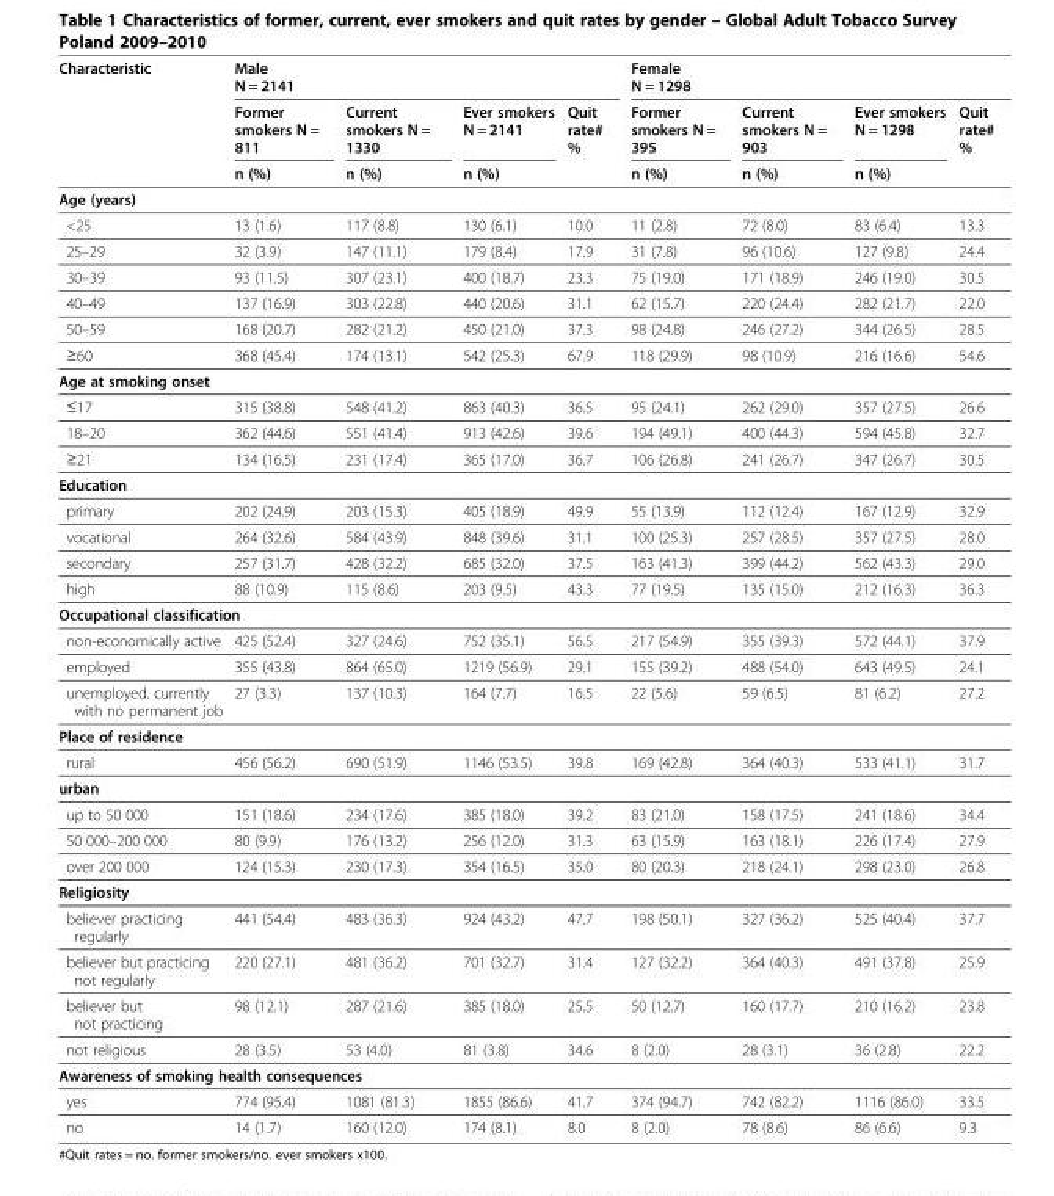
<table><thead><tr><td rowspan="3">Characteristic</td><td colspan="4">Male N = 2141</td><td colspan="4">Female N = 1298</td></tr><tr><td rowspan="2">Former smokers N = 811 n (%)</td><td rowspan="2">Current smokers N = 1330 n (%)</td><td rowspan="2">Ever smokers N = 2141 n (%)</td><td rowspan="2">Quit rate# %</td><td rowspan="2">Former smokers N = 395 n (%)</td><td rowspan="2">Current smokers N = 903 n (%)</td><td rowspan="2">Ever smokers N = 1298 n (%)</td><td rowspan="2">Quit rate# %</td></tr><tr></tr></thead><tbody><tr><td colspan="9">Age (years)</td></tr><tr><td>&lt;25</td><td>13 (1.6)</td><td>117 (8.8)</td><td>130 (6.1)</td><td>10.0</td><td>11 (2.8)</td><td>72 (8.0)</td><td>83 (6.4)</td><td>13.3</td></tr><tr><td>25–29</td><td>32 (3.9)</td><td>147 (11.1)</td><td>179 (8.4)</td><td>17.9</td><td>31 (7.8)</td><td>96 (10.6)</td><td>127 (9.8)</td><td>24.4</td></tr><tr><td>30–39</td><td>93 (11.5)</td><td>307 (23.1)</td><td>400 (18.7)</td><td>23.3</td><td>75 (19.0)</td><td>171 (18.9)</td><td>246 (19.0)</td><td>30.5</td></tr><tr><td>40–49</td><td>137 (16.9)</td><td>303 (22.8)</td><td>440 (20.6)</td><td>31.1</td><td>62 (15.7)</td><td>220 (24.4)</td><td>282 (21.7)</td><td>22.0</td></tr><tr><td>50–59</td><td>168 (20.7)</td><td>282 (21.2)</td><td>450 (21.0)</td><td>37.3</td><td>98 (24.8)</td><td>246 (27.2)</td><td>344 (26.5)</td><td>28.5</td></tr><tr><td>≥60</td><td>368 (45.4)</td><td>174 (13.1)</td><td>542 (25.3)</td><td>67.9</td><td>118 (29.9)</td><td>98 (10.9)</td><td>216 (16.6)</td><td>54.6</td></tr><tr><td colspan="9">Age at smoking onset</td></tr><tr><td>≤17</td><td>315 (38.8)</td><td>548 (41.2)</td><td>863 (40.3)</td><td>36.5</td><td>95 (24.1)</td><td>262 (29.0)</td><td>357 (27.5)</td><td>26.6</td></tr><tr><td>18–20</td><td>362 (44.6)</td><td>551 (41.4)</td><td>913 (42.6)</td><td>39.6</td><td>194 (49.1)</td><td>400 (44.3)</td><td>594 (45.8)</td><td>32.7</td></tr><tr><td>≥21</td><td>134 (16.5)</td><td>231 (17.4)</td><td>365 (17.0)</td><td>36.7</td><td>106 (26.8)</td><td>241 (26.7)</td><td>347 (26.7)</td><td>30.5</td></tr><tr><td colspan="9">Education</td></tr><tr><td>primary</td><td>202 (24.9)</td><td>203 (15.3)</td><td>405 (18.9)</td><td>49.9</td><td>55 (13.9)</td><td>112 (12.4)</td><td>167 (12.9)</td><td>32.9</td></tr><tr><td>vocational</td><td>264 (32.6)</td><td>584 (43.9)</td><td>848 (39.6)</td><td>31.1</td><td>100 (25.3)</td><td>257 (28.5)</td><td>357 (27.5)</td><td>28.0</td></tr><tr><td>secondary</td><td>257 (31.7)</td><td>428 (32.2)</td><td>685 (32.0)</td><td>37.5</td><td>163 (41.3)</td><td>399 (44.2)</td><td>562 (43.3)</td><td>29.0</td></tr><tr><td>high</td><td>88 (10.9)</td><td>115 (8.6)</td><td>203 (9.5)</td><td>43.3</td><td>77 (19.5)</td><td>135 (15.0)</td><td>212 (16.3)</td><td>36.3</td></tr><tr><td colspan="9">Occupational classification</td></tr><tr><td>non-economically active</td><td>425 (52.4)</td><td>327 (24.6)</td><td>752 (35.1)</td><td>56.5</td><td>217 (54.9)</td><td>355 (39.3)</td><td>572 (44.1)</td><td>37.9</td></tr><tr><td>employed</td><td>355 (43.8)</td><td>864 (65.0)</td><td>1219 (56.9)</td><td>29.1</td><td>155 (39.2)</td><td>488 (54.0)</td><td>643 (49.5)</td><td>24.1</td></tr><tr><td>unemployed. currently with no permanent job</td><td>27 (3.3)</td><td>137 (10.3)</td><td>164 (7.7)</td><td>16.5</td><td>22 (5.6)</td><td>59 (6.5)</td><td>81 (6.2)</td><td>27.2</td></tr><tr><td colspan="9">Place of residence</td></tr><tr><td>rural</td><td>456 (56.2)</td><td>690 (51.9)</td><td>1146 (53.5)</td><td>39.8</td><td>169 (42.8)</td><td>364 (40.3)</td><td>533 (41.1)</td><td>31.7</td></tr><tr><td colspan="9">urban</td></tr><tr><td>up to 50 000</td><td>151 (18.6)</td><td>234 (17.6)</td><td>385 (18.0)</td><td>39.2</td><td>83 (21.0)</td><td>158 (17.5)</td><td>241 (18.6)</td><td>34.4</td></tr><tr><td>50 000–200 000</td><td>80 (9.9)</td><td>176 (13.2)</td><td>256 (12.0)</td><td>31.3</td><td>63 (15.9)</td><td>163 (18.1)</td><td>226 (17.4)</td><td>27.9</td></tr><tr><td>over 200 000</td><td>124 (15.3)</td><td>230 (17.3)</td><td>354 (16.5)</td><td>35.0</td><td>80 (20.3)</td><td>218 (24.1)</td><td>298 (23.0)</td><td>26.8</td></tr><tr><td colspan="9">Religiosity</td></tr><tr><td>believer practicing regularly</td><td>441 (54.4)</td><td>483 (36.3)</td><td>924 (43.2)</td><td>47.7</td><td>198 (50.1)</td><td>327 (36.2)</td><td>525 (40.4)</td><td>37.7</td></tr><tr><td>believer but practicing not regularly</td><td>220 (27.1)</td><td>481 (36.2)</td><td>701 (32.7)</td><td>31.4</td><td>127 (32.2)</td><td>364 (40.3)</td><td>491 (37.8)</td><td>25.9</td></tr><tr><td>believer but not practicing</td><td>98 (12.1)</td><td>287 (21.6)</td><td>385 (18.0)</td><td>25.5</td><td>50 (12.7)</td><td>160 (17.7)</td><td>210 (16.2)</td><td>23.8</td></tr><tr><td>not religious</td><td>28 (3.5)</td><td>53 (4.0)</td><td>81 (3.8)</td><td>34.6</td><td>8 (2.0)</td><td>28 (3.1)</td><td>36 (2.8)</td><td>22.2</td></tr><tr><td colspan="9">Awareness of smoking health consequences</td></tr><tr><td>yes</td><td>774 (95.4)</td><td>1081 (81.3)</td><td>1855 (86.6)</td><td>41.7</td><td>374 (94.7)</td><td>742 (82.2)</td><td>1116 (86.0)</td><td>33.5</td></tr><tr><td>no</td><td>14 (1.7)</td><td>160 (12.0)</td><td>174 (8.1)</td><td>8.0</td><td>8 (2.0)</td><td>78 (8.6)</td><td>86 (6.6)</td><td>9.3</td></tr></tbody></table>